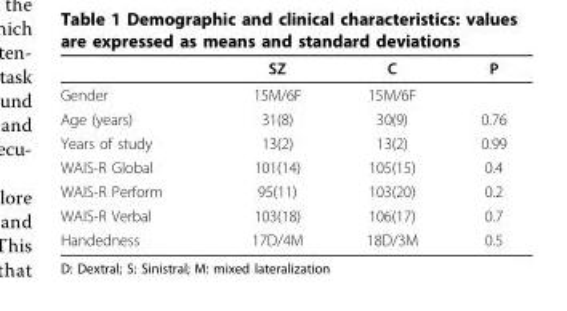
<table><thead><tr><td></td><td>SZ</td><td>C</td><td>P</td></tr></thead><tbody><tr><td>Gender</td><td>15M/6F</td><td>15M/6F</td><td></td></tr><tr><td>Age (years)</td><td>31(8)</td><td>30(9)</td><td>0.76</td></tr><tr><td>Years of study</td><td>13(2)</td><td>13(2)</td><td>0.99</td></tr><tr><td>WAIS-R Global</td><td>101(14)</td><td>105(15)</td><td>0.4</td></tr><tr><td>WAIS-R Perform</td><td>95(11)</td><td>103(20)</td><td>0.2</td></tr><tr><td>WAIS-R Verbal</td><td>103(18)</td><td>106(17)</td><td>0.7</td></tr><tr><td>Handedness</td><td>17D/4M</td><td>18D/3M</td><td>0.5</td></tr></tbody></table>